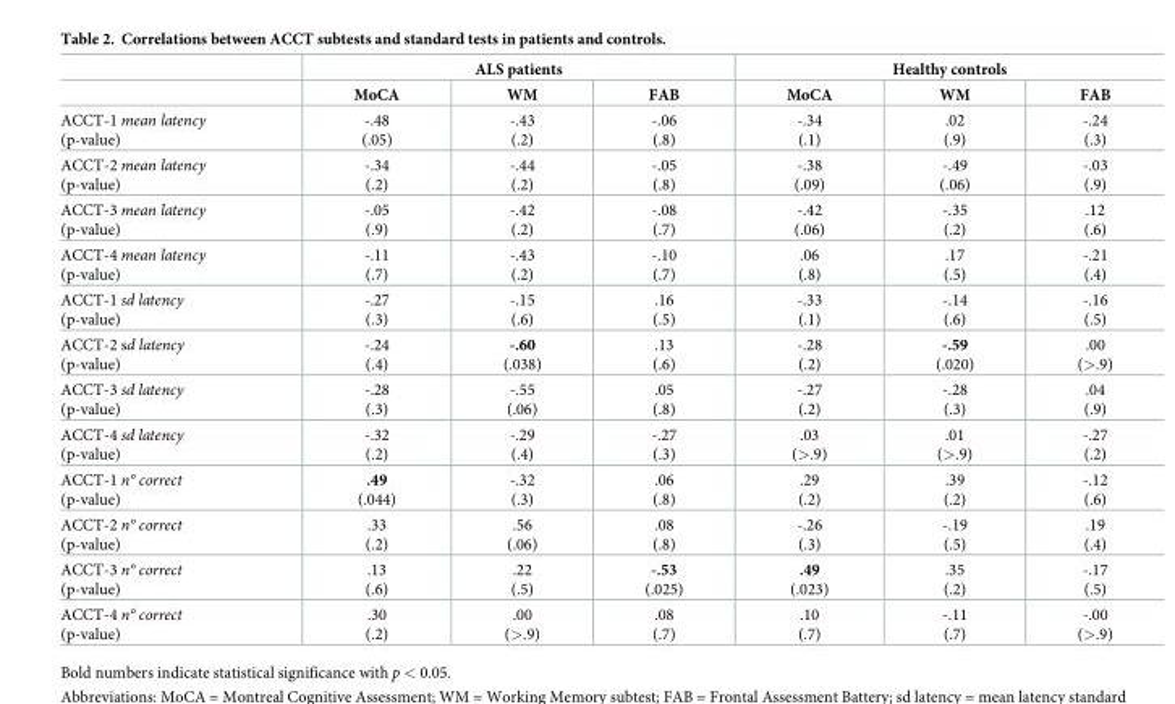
<table><thead><tr><td rowspan="2"></td><td colspan="3">ALS patients</td><td colspan="3">Healthy controls</td></tr><tr><td>MoCA</td><td>WM</td><td>FAB</td><td>MoCA</td><td>WM</td><td>FAB</td></tr></thead><tbody><tr><td>ACCT-1 mean latency (p-value)</td><td>-.48 (.05)</td><td>-.43 (.2)</td><td>-.06 (.8)</td><td>-.34 (.1)</td><td>.02 (.9)</td><td>-.24 (.3)</td></tr><tr><td>ACCT-2 mean latency (p-value)</td><td>-.34 (.2)</td><td>-.44 (.2)</td><td>-.05 (.8)</td><td>-.38 (.09)</td><td>-.49 (.06)</td><td>-.03 (.9)</td></tr><tr><td>ACCT-3 mean latency (p-value)</td><td>-.05 (.9)</td><td>-.42 (.2)</td><td>-.08 (.7)</td><td>-.42 (.06)</td><td>-.35 (.2)</td><td>.12 (.6)</td></tr><tr><td>ACCT-4 mean latency (p-value)</td><td>-.11 (.7)</td><td>-.43 (.2)</td><td>-.10 (.7)</td><td>.06 (.8)</td><td>.17 (.5)</td><td>-.21 (.4)</td></tr><tr><td>ACCT-1 sd latency (p-value)</td><td>-.27 (.3)</td><td>-.15 (.6)</td><td>.16 (.5)</td><td>-.33 (.1)</td><td>-.14 (.6)</td><td>-.16 (.5)</td></tr><tr><td>ACCT-2 sd latency (p-value)</td><td>-.24 (.4)</td><td>-.60 (.038)</td><td>.13 (.6)</td><td>-.28 (.2)</td><td>-.59 (.020)</td><td>.00 (&gt;.9)</td></tr><tr><td>ACCT-3 sd latency (p-value)</td><td>-.28 (.3)</td><td>-.55 (.06)</td><td>.05 (.8)</td><td>-.27 (.2)</td><td>-.28 (.3)</td><td>.04 (.9)</td></tr><tr><td>ACCT-4 sd latency (p-value)</td><td>-.32 (.2)</td><td>-.29 (.4)</td><td>-.27 (.3)</td><td>.03 (&gt;.9)</td><td>.01 (&gt;.9)</td><td>-.27 (.2)</td></tr><tr><td>ACCT-1 n° correct (p-value)</td><td>.49 (.044)</td><td>-.32 (.3)</td><td>.06 (.8)</td><td>.29 (.2)</td><td>.39 (.2)</td><td>-.12 (.6)</td></tr><tr><td>ACCT-2 n° correct (p-value)</td><td>.33 (.2)</td><td>.56 (.06)</td><td>.08 (.8)</td><td>-.26 (.3)</td><td>-.19 (.5)</td><td>.19 (.4)</td></tr><tr><td>ACCT-3 n° correct (p-value)</td><td>.13 (.6)</td><td>.22 (.5)</td><td>-.53 (.025)</td><td>.49 (.023)</td><td>.35 (.2)</td><td>-.17 (.5)</td></tr><tr><td>ACCT-4 n° correct (p-value)</td><td>.30 (.2)</td><td>.00 (&gt;.9)</td><td>.08 (.7)</td><td>.10 (.7)</td><td>-.11 (.7)</td><td>-.00 (&gt;.9)</td></tr></tbody></table>